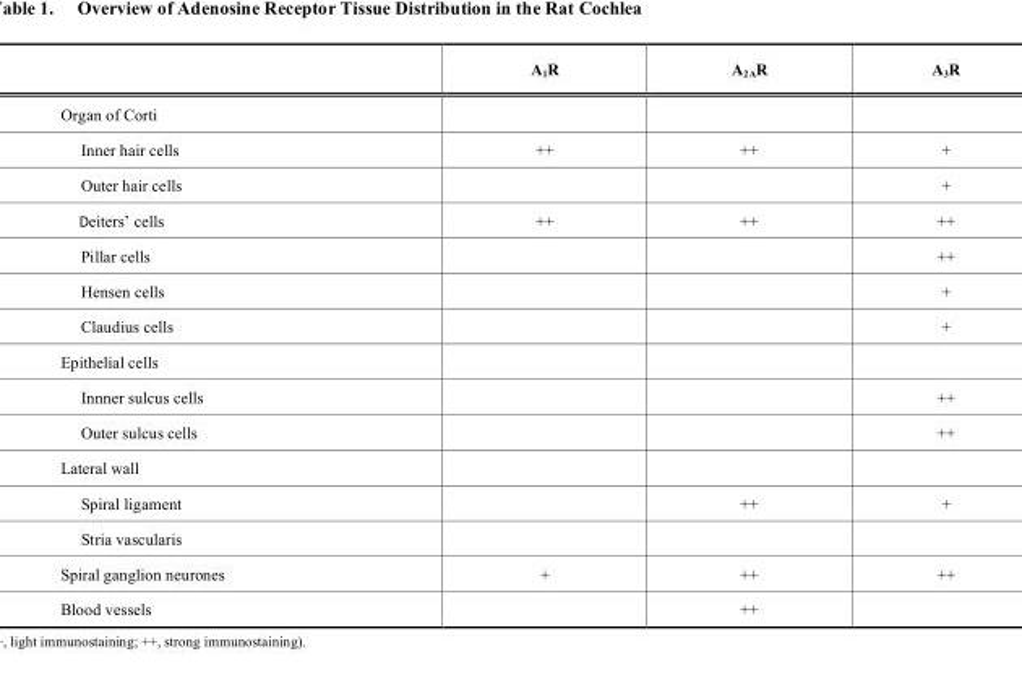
<table><thead><tr><td></td><td>A<sub>1</sub>R</td><td>A<sub>2A</sub>R</td><td>A<sub>3</sub>R</td></tr></thead><tbody><tr><td colspan="4">Organ of Corti</td></tr><tr><td>Inner hair cells</td><td>++</td><td>++</td><td>+</td></tr><tr><td>Outer hair cells</td><td></td><td></td><td>+</td></tr><tr><td>Deiters’ cells</td><td>++</td><td>++</td><td>++</td></tr><tr><td>Pillar cells</td><td></td><td></td><td>++</td></tr><tr><td>Hensen cells</td><td></td><td></td><td>+</td></tr><tr><td>Claudius cells</td><td></td><td></td><td>+</td></tr><tr><td colspan="4">Epithelial cells</td></tr><tr><td>Innner sulcus cells</td><td></td><td></td><td>++</td></tr><tr><td>Outer sulcus cells</td><td></td><td></td><td>++</td></tr><tr><td colspan="4">Lateral wall</td></tr><tr><td>Spiral ligament</td><td></td><td>++</td><td>+</td></tr><tr><td colspan="4">Stria vascularis</td></tr><tr><td>Spiral ganglion neurones</td><td>+</td><td>++</td><td>++</td></tr><tr><td>Blood vessels</td><td></td><td>++</td><td></td></tr></tbody></table>